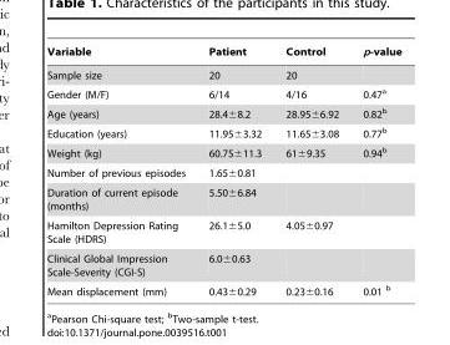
<table><thead><tr><td>Variable</td><td>Patient</td><td>Control</td><td>p-value</td></tr></thead><tbody><tr><td>Sample size</td><td>20</td><td>20</td><td></td></tr><tr><td>Gender (M/F)</td><td>6/14</td><td>4/16</td><td>0.47<sup>a</sup></td></tr><tr><td>Age (years)</td><td>28.4±8.2</td><td>28.95±6.92</td><td>0.82<sup>b</sup></td></tr><tr><td>Education (years)</td><td>11.95±3.32</td><td>11.65±3.08</td><td>0.77<sup>b</sup></td></tr><tr><td>Weight (kg)</td><td>60.75±11.3</td><td>61±9.35</td><td>0.94<sup>b</sup></td></tr><tr><td>Number of previous episodes</td><td>1.65±0.81</td><td></td><td></td></tr><tr><td>Duration of current episode (months)</td><td>5.50±6.84</td><td></td><td></td></tr><tr><td>Hamilton Depression Rating Scale (HDRS)</td><td>26.1±5.0</td><td>4.05±0.97</td><td></td></tr><tr><td>Clinical Global Impression Scale-Severity (CGI-S)</td><td>6.0±0.63</td><td></td><td></td></tr><tr><td>Mean displacement (mm)</td><td>0.43±0.29</td><td>0.23±0.16</td><td>0.01 <sup>b</sup></td></tr></tbody></table>